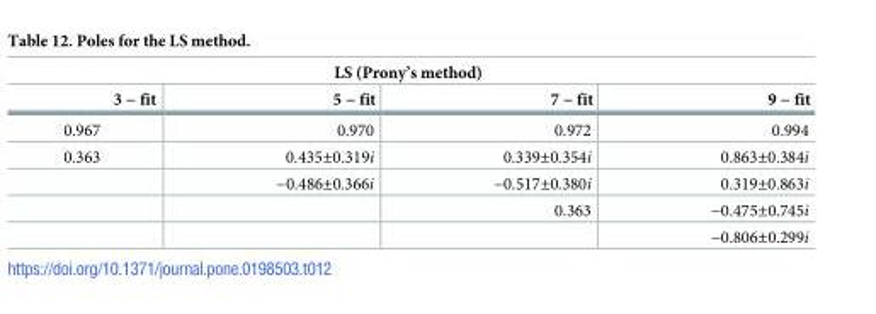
<table><thead><tr><td colspan="4">LS (Prony’s method)</td></tr><tr><td>3 − fit</td><td>5 − fit</td><td>7 − fit</td><td>9 − fit</td></tr></thead><tbody><tr><td>0.967</td><td>0.970</td><td>0.972</td><td>0.994</td></tr><tr><td rowspan="4">0.363</td><td>0.435±0.319i</td><td>0.339±0.354i</td><td>0.863±0.384i</td></tr><tr><td>−0.486±0.366i</td><td>−0.517±0.380i</td><td>0.319±0.863i</td></tr><tr><td></td><td>0.363</td><td>−0.475±0.745i</td></tr><tr><td></td><td></td><td>−0.806±0.299i</td></tr></tbody></table>